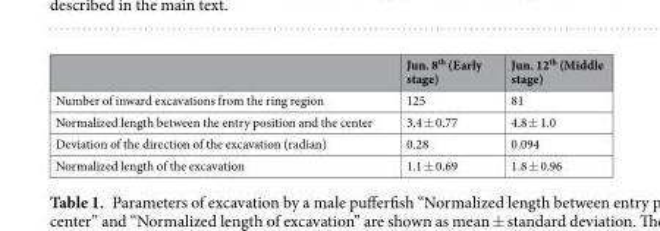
<table><thead><tr><td></td><td>Jun. 8<sup>th</sup> (Early stage)</td><td>Jun. 12<sup>th</sup> (Middle stage)</td></tr></thead><tbody><tr><td>Number of inward excavations from the ring region</td><td>125</td><td>81</td></tr><tr><td>Normalized length between the entry position and the center</td><td>3.4 ± 0.77</td><td>4.8 ± 1.0</td></tr><tr><td>Deviation of the direction of the excavation (radian)</td><td>0.28</td><td>0.094</td></tr><tr><td>Normalized length of the excavation</td><td>1.1 ± 0.69</td><td>1.8 ± 0.96</td></tr></tbody></table>